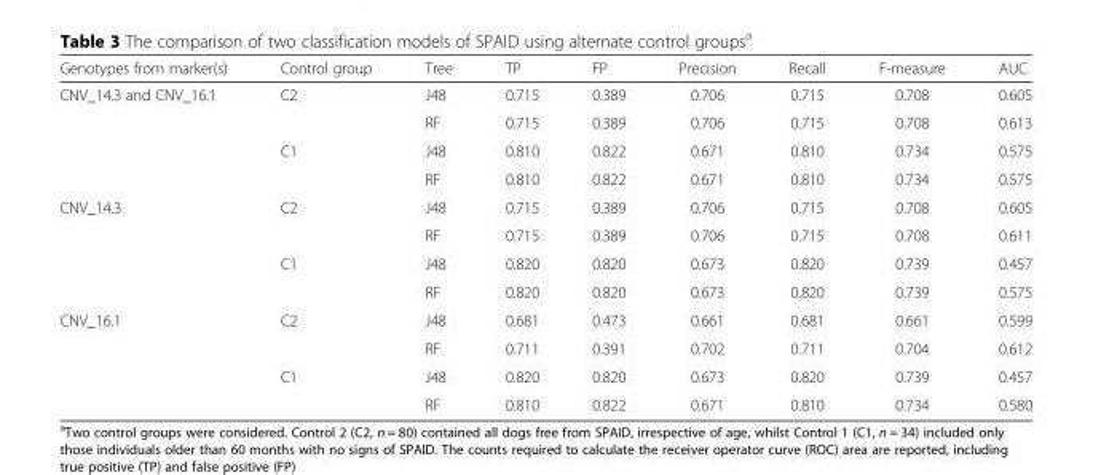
<table><thead><tr><td>Genotypes from marker(s)</td><td>Control group</td><td>Tree</td><td>TP</td><td>FP</td><td>Precision</td><td>Recall</td><td>F-measure</td><td>AUC</td></tr></thead><tbody><tr><td rowspan="4">CNV_14.3 and CNV_16.1</td><td>C2</td><td>J48</td><td>0.715</td><td>0.389</td><td>0.706</td><td>0.715</td><td>0.708</td><td>0.605</td></tr><tr><td></td><td>RF</td><td>0.715</td><td>0.389</td><td>0.706</td><td>0.715</td><td>0.708</td><td>0.613</td></tr><tr><td>C1</td><td>J48</td><td>0.810</td><td>0.822</td><td>0.671</td><td>0.810</td><td>0.734</td><td>0.575</td></tr><tr><td></td><td>RF</td><td>0.810</td><td>0.822</td><td>0.671</td><td>0.810</td><td>0.734</td><td>0.575</td></tr><tr><td rowspan="4">CNV_14.3</td><td>C2</td><td>J48</td><td>0.715</td><td>0.389</td><td>0.706</td><td>0.715</td><td>0.708</td><td>0.605</td></tr><tr><td></td><td>RF</td><td>0.715</td><td>0.389</td><td>0.706</td><td>0.715</td><td>0.708</td><td>0.611</td></tr><tr><td>C1</td><td>J48</td><td>0.820</td><td>0.820</td><td>0.673</td><td>0.820</td><td>0.739</td><td>0.457</td></tr><tr><td></td><td>RF</td><td>0.820</td><td>0.820</td><td>0.673</td><td>0.820</td><td>0.739</td><td>0.575</td></tr><tr><td rowspan="4">CNV_16.1</td><td>C2</td><td>J48</td><td>0.681</td><td>0.473</td><td>0.661</td><td>0.681</td><td>0.661</td><td>0.599</td></tr><tr><td></td><td>RF</td><td>0.711</td><td>0.391</td><td>0.702</td><td>0.711</td><td>0.704</td><td>0.612</td></tr><tr><td>C1</td><td>J48</td><td>0.820</td><td>0.820</td><td>0.673</td><td>0.820</td><td>0.739</td><td>0.457</td></tr><tr><td></td><td>RF</td><td>0.810</td><td>0.822</td><td>0.671</td><td>0.810</td><td>0.734</td><td>0.580</td></tr></tbody></table>